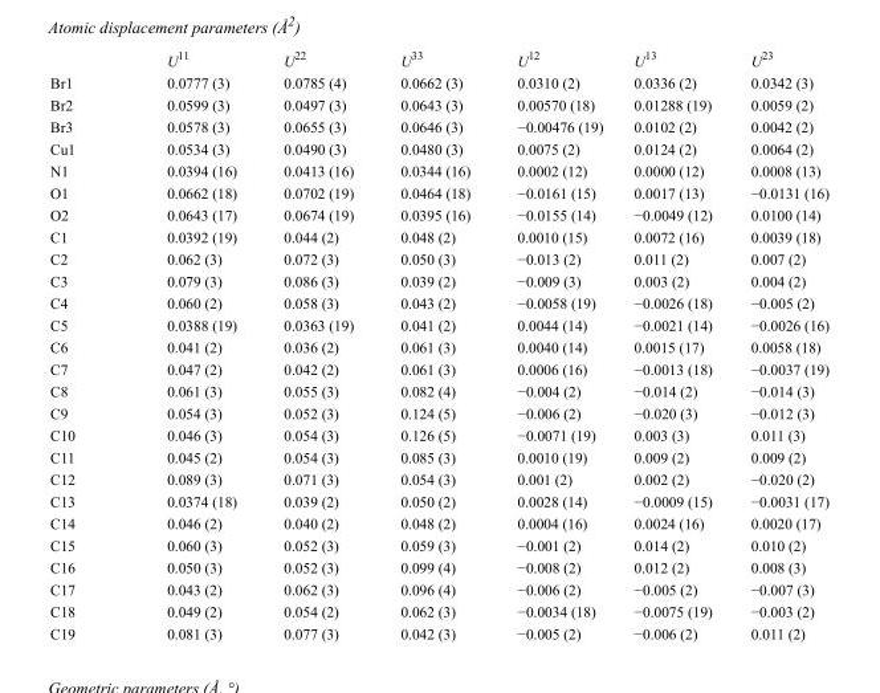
<table><thead><tr><td></td><td>U<sup>11</sup></td><td>U<sup>22</sup></td><td>U<sup>33</sup></td><td>U<sup>12</sup></td><td>U<sup>13</sup></td><td>U<sup>23</sup></td></tr></thead><tbody><tr><td>Br1</td><td>0.0777 (3)</td><td>0.0785 (4)</td><td>0.0662 (3)</td><td>0.0310 (2)</td><td>0.0336 (2)</td><td>0.0342 (3)</td></tr><tr><td>Br2</td><td>0.0599 (3)</td><td>0.0497 (3)</td><td>0.0643 (3)</td><td>0.00570 (18)</td><td>0.01288 (19)</td><td>0.0059 (2)</td></tr><tr><td>Br3</td><td>0.0578 (3)</td><td>0.0655 (3)</td><td>0.0646 (3)</td><td>−0.00476 (19)</td><td>0.0102 (2)</td><td>0.0042 (2)</td></tr><tr><td>Cu1</td><td>0.0534 (3)</td><td>0.0490 (3)</td><td>0.0480 (3)</td><td>0.0075 (2)</td><td>0.0124 (2)</td><td>0.0064 (2)</td></tr><tr><td>N1</td><td>0.0394 (16)</td><td>0.0413 (16)</td><td>0.0344 (16)</td><td>0.0002 (12)</td><td>0.0000 (12)</td><td>0.0008 (13)</td></tr><tr><td>O1</td><td>0.0662 (18)</td><td>0.0702 (19)</td><td>0.0464 (18)</td><td>−0.0161 (15)</td><td>0.0017 (13)</td><td>−0.0131 (16)</td></tr><tr><td>O2</td><td>0.0643 (17)</td><td>0.0674 (19)</td><td>0.0395 (16)</td><td>−0.0155 (14)</td><td>−0.0049 (12)</td><td>0.0100 (14)</td></tr><tr><td>C1</td><td>0.0392 (19)</td><td>0.044 (2)</td><td>0.048 (2)</td><td>0.0010 (15)</td><td>0.0072 (16)</td><td>0.0039 (18)</td></tr><tr><td>C2</td><td>0.062 (3)</td><td>0.072 (3)</td><td>0.050 (3)</td><td>−0.013 (2)</td><td>0.011 (2)</td><td>0.007 (2)</td></tr><tr><td>C3</td><td>0.079 (3)</td><td>0.086 (3)</td><td>0.039 (2)</td><td>−0.009 (3)</td><td>0.003 (2)</td><td>0.004 (2)</td></tr><tr><td>C4</td><td>0.060 (2)</td><td>0.058 (3)</td><td>0.043 (2)</td><td>−0.0058 (19)</td><td>−0.0026 (18)</td><td>−0.005 (2)</td></tr><tr><td>C5</td><td>0.0388 (19)</td><td>0.0363 (19)</td><td>0.041 (2)</td><td>0.0044 (14)</td><td>−0.0021 (14)</td><td>−0.0026 (16)</td></tr><tr><td>C6</td><td>0.041 (2)</td><td>0.036 (2)</td><td>0.061 (3)</td><td>0.0040 (14)</td><td>0.0015 (17)</td><td>0.0058 (18)</td></tr><tr><td>C7</td><td>0.047 (2)</td><td>0.042 (2)</td><td>0.061 (3)</td><td>0.0006 (16)</td><td>−0.0013 (18)</td><td>−0.0037 (19)</td></tr><tr><td>C8</td><td>0.061 (3)</td><td>0.055 (3)</td><td>0.082 (4)</td><td>−0.004 (2)</td><td>−0.014 (2)</td><td>−0.014 (3)</td></tr><tr><td>C9</td><td>0.054 (3)</td><td>0.052 (3)</td><td>0.124 (5)</td><td>−0.006 (2)</td><td>−0.020 (3)</td><td>−0.012 (3)</td></tr><tr><td>C10</td><td>0.046 (3)</td><td>0.054 (3)</td><td>0.126 (5)</td><td>−0.0071 (19)</td><td>0.003 (3)</td><td>0.011 (3)</td></tr><tr><td>C11</td><td>0.045 (2)</td><td>0.054 (3)</td><td>0.085 (3)</td><td>0.0010 (19)</td><td>0.009 (2)</td><td>0.009 (2)</td></tr><tr><td>C12</td><td>0.089 (3)</td><td>0.071 (3)</td><td>0.054 (3)</td><td>0.001 (2)</td><td>0.002 (2)</td><td>−0.020 (2)</td></tr><tr><td>C13</td><td>0.0374 (18)</td><td>0.039 (2)</td><td>0.050 (2)</td><td>0.0028 (14)</td><td>−0.0009 (15)</td><td>−0.0031 (17)</td></tr><tr><td>C14</td><td>0.046 (2)</td><td>0.040 (2)</td><td>0.048 (2)</td><td>0.0004 (16)</td><td>0.0024 (16)</td><td>0.0020 (17)</td></tr><tr><td>C15</td><td>0.060 (3)</td><td>0.052 (3)</td><td>0.059 (3)</td><td>−0.001 (2)</td><td>0.014 (2)</td><td>0.010 (2)</td></tr><tr><td>C16</td><td>0.050 (3)</td><td>0.052 (3)</td><td>0.099 (4)</td><td>−0.008 (2)</td><td>0.012 (2)</td><td>0.008 (3)</td></tr><tr><td>C17</td><td>0.043 (2)</td><td>0.062 (3)</td><td>0.096 (4)</td><td>−0.006 (2)</td><td>−0.005 (2)</td><td>−0.007 (3)</td></tr><tr><td>C18</td><td>0.049 (2)</td><td>0.054 (2)</td><td>0.062 (3)</td><td>−0.0034 (18)</td><td>−0.0075 (19)</td><td>−0.003 (2)</td></tr><tr><td>C19</td><td>0.081 (3)</td><td>0.077 (3)</td><td>0.042 (3)</td><td>−0.005 (2)</td><td>−0.006 (2)</td><td>0.011 (2)</td></tr></tbody></table>